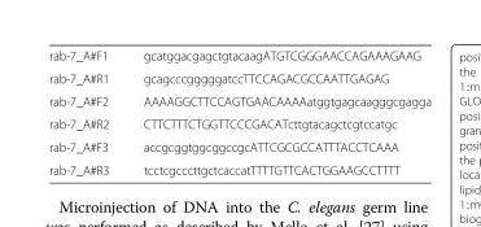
<table><tbody><tr><td>rab-7_A#F1</td><td>gcatggacgagctgtacaagATGTCGGGAACCAGAAAGAAG</td></tr><tr><td>rab-7_A#R1</td><td>gcagcccgggggatccTTCCAGACGCCAATTGAGAG</td></tr><tr><td>rab-7_A#F2</td><td>AAAAGGCTTCCAGTGAACAAAAatggtgagcaagggcgagga</td></tr><tr><td>rab-7_A#R2</td><td>CTTCTTTCTGGTTCCCGACATcttgtacagctcgtccatgc</td></tr><tr><td>rab-7_A#F3</td><td>accgcggtggcggccgcATTCGCGCCATTTACCTCAAA</td></tr><tr><td>rab-7_A#R3</td><td>tcctcgcccttgctcaccatTTTTGTTCACTGGAAGCCTTTT</td></tr></tbody></table>